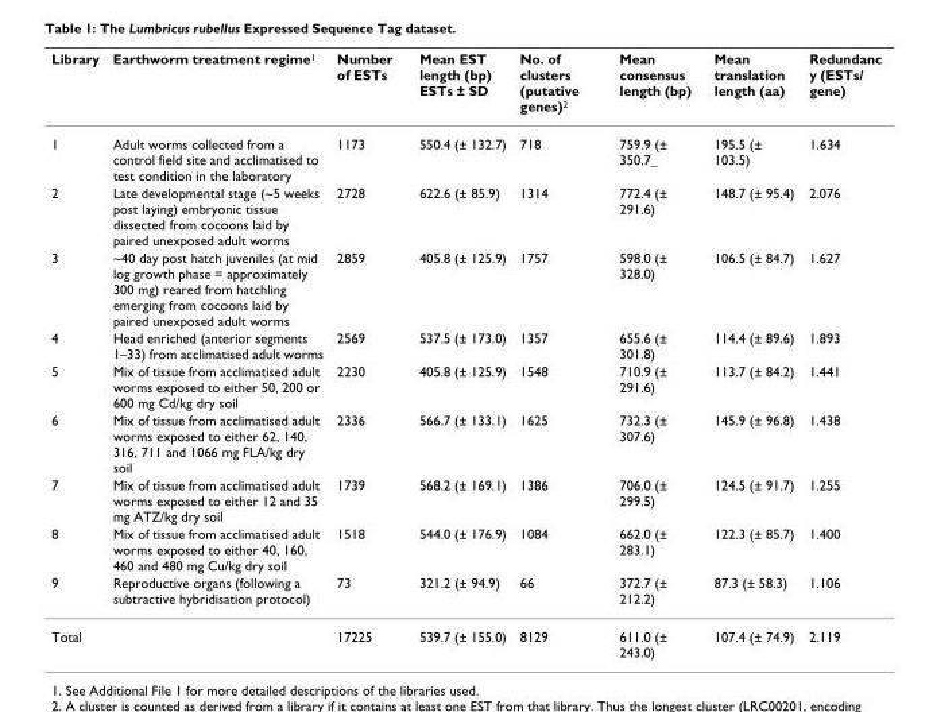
<table><thead><tr><td>Library</td><td>Earthworm treatment regime<sup>1</sup></td><td>Number of ESTs</td><td>Mean EST length (bp) ESTs ± SD</td><td>No. of clusters (putative genes)<sup>2</sup></td><td>Mean consensus length (bp)</td><td>Mean translation length (aa)</td><td>Redundanc y (ESTs/ gene)</td></tr></thead><tbody><tr><td>1</td><td>Adult worms collected from a control field site and acclimatised to test condition in the laboratory</td><td>1173</td><td>550.4 (± 132.7)</td><td>718</td><td>759.9 (± 350.7_</td><td>195.5 (± 103.5)</td><td>1.634</td></tr><tr><td>2</td><td>Late developmental stage (~5 weeks post laying) embryonic tissue dissected from cocoons laid by paired unexposed adult worms</td><td>2728</td><td>622.6 (± 85.9)</td><td>1314</td><td>772.4 (± 291.6)</td><td>148.7 (± 95.4)</td><td>2.076</td></tr><tr><td>3</td><td>~40 day post hatch juveniles (at mid log growth phase = approximately 300 mg) reared from hatchling emerging from cocoons laid by paired unexposed adult worms</td><td>2859</td><td>405.8 (± 125.9)</td><td>1757</td><td>598.0 (± 328.0)</td><td>106.5 (± 84.7)</td><td>1.627</td></tr><tr><td>4</td><td>Head enriched (anterior segments 1–33) from acclimatised adult worms</td><td>2569</td><td>537.5 (± 173.0)</td><td>1357</td><td>655.6 (± 301.8)</td><td>114.4 (± 89.6)</td><td>1.893</td></tr><tr><td>5</td><td>Mix of tissue from acclimatised adult worms exposed to either 50, 200 or 600 mg Cd/kg dry soil</td><td>2230</td><td>405.8 (± 125.9)</td><td>1548</td><td>710.9 (± 291.6)</td><td>113.7 (± 84.2)</td><td>1.441</td></tr><tr><td>6</td><td>Mix of tissue from acclimatised adult worms exposed to either 62, 140, 316, 711 and 1066 mg FLA/kg dry soil</td><td>2336</td><td>566.7 (± 133.1)</td><td>1625</td><td>732.3 (± 307.6)</td><td>145.9 (± 96.8)</td><td>1.438</td></tr><tr><td>7</td><td>Mix of tissue from acclimatised adult worms exposed to either 12 and 35 mg ATZ/kg dry soil</td><td>1739</td><td>568.2 (± 169.1)</td><td>1386</td><td>706.0 (± 299.5)</td><td>124.5 (± 91.7)</td><td>1.255</td></tr><tr><td>8</td><td>Mix of tissue from acclimatised adult worms exposed to either 40, 160, 460 and 480 mg Cu/kg dry soil</td><td>1518</td><td>544.0 (± 176.9)</td><td>1084</td><td>662.0 (± 283.1)</td><td>122.3 (± 85.7)</td><td>1.400</td></tr><tr><td>9</td><td>Reproductive organs (following a subtractive hybridisation protocol)</td><td>73</td><td>321.2 (± 94.9)</td><td>66</td><td>372.7 (± 212.2)</td><td>87.3 (± 58.3)</td><td>1.106</td></tr><tr><td>Total</td><td></td><td>17225</td><td>539.7 (± 155.0)</td><td>8129</td><td>611.0 (± 243.0)</td><td>107.4 (± 74.9)</td><td>2.119</td></tr></tbody></table>